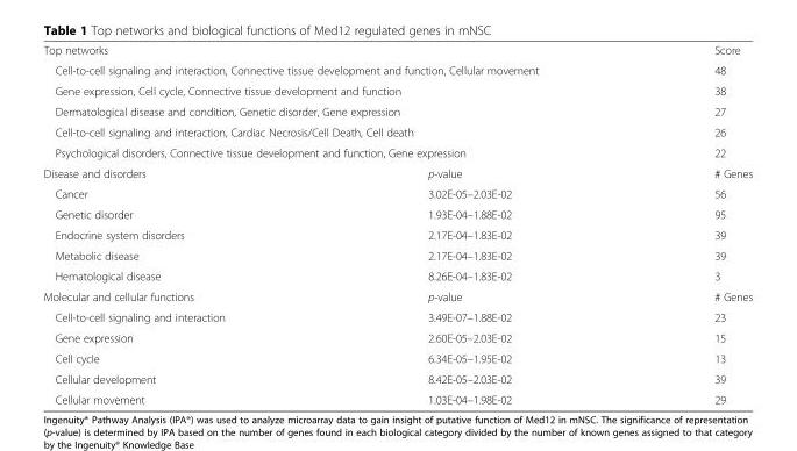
<table><tbody><tr><td colspan="2">Top networks</td><td>Score</td></tr><tr><td colspan="2">Cell-to-cell signaling and interaction, Connective tissue development and function, Cellular movement</td><td>48</td></tr><tr><td colspan="2">Gene expression, Cell cycle, Connective tissue development and function</td><td>38</td></tr><tr><td colspan="2">Dermatological disease and condition, Genetic disorder, Gene expression</td><td>27</td></tr><tr><td colspan="2">Cell-to-cell signaling and interaction, Cardiac Necrosis/Cell Death, Cell death</td><td>26</td></tr><tr><td colspan="2">Psychological disorders, Connective tissue development and function, Gene expression</td><td>22</td></tr><tr><td>Disease and disorders</td><td>p-value</td><td># Genes</td></tr><tr><td>Cancer</td><td>3.02E-05–2.03E-02</td><td>56</td></tr><tr><td>Genetic disorder</td><td>1.93E-04–1.88E-02</td><td>95</td></tr><tr><td>Endocrine system disorders</td><td>2.17E-04–1.83E-02</td><td>39</td></tr><tr><td>Metabolic disease</td><td>2.17E-04–1.83E-02</td><td>39</td></tr><tr><td>Hematological disease</td><td>8.26E-04–1.83E-02</td><td>3</td></tr><tr><td>Molecular and cellular functions</td><td>p-value</td><td># Genes</td></tr><tr><td>Cell-to-cell signaling and interaction</td><td>3.49E-07–1.88E-02</td><td>23</td></tr><tr><td>Gene expression</td><td>2.60E-05–2.03E-02</td><td>15</td></tr><tr><td>Cell cycle</td><td>6.34E-05–1.95E-02</td><td>13</td></tr><tr><td>Cellular development</td><td>8.42E-05–2.03E-02</td><td>39</td></tr><tr><td>Cellular movement</td><td>1.03E-04–1.98E-02</td><td>29</td></tr></tbody></table>